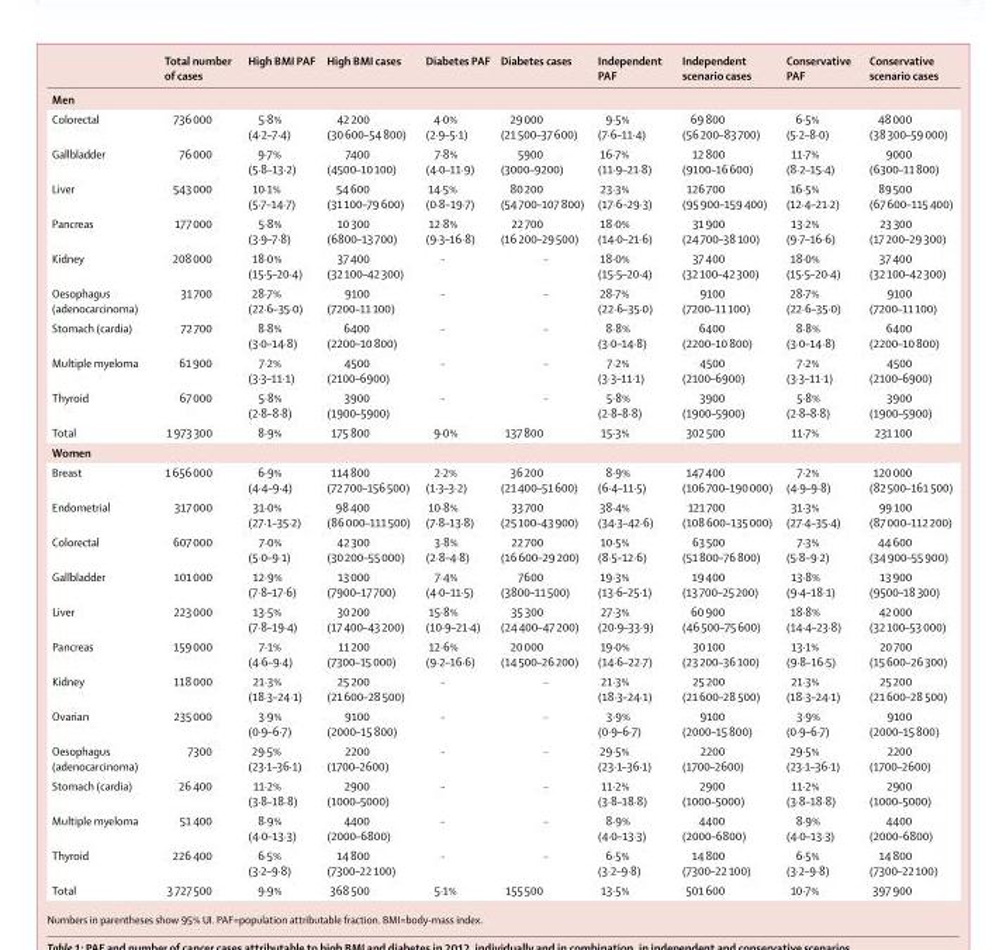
<table><thead><tr><td></td><td>Total number of cases</td><td>High BMI PAF</td><td>High BMI cases</td><td>Diabetes PAF</td><td>Diabetes cases</td><td>Independent PAF</td><td>Independent scenario cases</td><td>Conservative PAF</td><td>Conservative scenario cases</td></tr></thead><tbody><tr><td colspan="10">Men</td></tr><tr><td>Colorectal</td><td>736 000</td><td>5·8% (4·2–7·4)</td><td>42 200 (30 600–54 800)</td><td>4·0% (2·9–5·1)</td><td>29 000 (21 500–37 600)</td><td>9·5% (7·6–11·4)</td><td>69 800 (56 200–83 700)</td><td>6·5% (5·2–8·0)</td><td>48 000 (38 300–59 000)</td></tr><tr><td>Gallbladder</td><td>76 000</td><td>9·7% (5·8–13·2)</td><td>7400 (4500–10 100)</td><td>7·8% (4·0–11·9)</td><td>5900 (3000–9200)</td><td>16·7% (11·9–21·8)</td><td>12 800 (9100–16 600)</td><td>11·7% (8·2–15·4)</td><td>9000 (6300–11 800)</td></tr><tr><td>Liver</td><td>543 000</td><td>10·1% (5·7–14·7)</td><td>54 600 (31 100–79 600)</td><td>14·5% (0·8–19·7)</td><td>80 200 (54 700–107 800)</td><td>23·3% (17·6–29·3)</td><td>126 700 (95 900–159 400)</td><td>16·5% (12·4–21·2)</td><td>89 500 (67 600–115 400)</td></tr><tr><td>Pancreas</td><td>177 000</td><td>5·8% (3·9–7·8)</td><td>10 300 (6800–13 700)</td><td>12·8% (9·3–16·8)</td><td>22 700 (16 200–29 500)</td><td>18·0% (14·0–21·6)</td><td>31 900 (24 700–38 100)</td><td>13·2% (9·7–16·6)</td><td>23 300 (17 200–29 300)</td></tr><tr><td>Kidney</td><td>208 000</td><td>18·0% (15·5–20·4)</td><td>37 400 (32 100–42 300)</td><td>··</td><td>··</td><td>18·0% (15·5–20·4)</td><td>37 400 (32 100–42 300)</td><td>18·0% (15·5–20·4)</td><td>37 400 (32 100–42 300)</td></tr><tr><td>Oesophagus (adenocarcinoma)</td><td>31 700</td><td>28·7% (22·6–35·0)</td><td>9100 (7200–11 100)</td><td>··</td><td>··</td><td>28·7% (22·6–35·0)</td><td>9100 (7200–11 100)</td><td>28·7% (22·6–35·0)</td><td>9100 (7200–11 100)</td></tr><tr><td>Stomach (cardia)</td><td>72 700</td><td>8·8% (3·0–14·8)</td><td>6400 (2200–10 800)</td><td>··</td><td>··</td><td>8·8% (3·0–14·8)</td><td>6400 (2200–10 800)</td><td>8·8% (3·0–14·8)</td><td>6400 (2200–10 800)</td></tr><tr><td>Multiple myeloma</td><td>61 900</td><td>7·2% (3·3–11·1)</td><td>4500 (2100–6900)</td><td>··</td><td>··</td><td>7·2% (3·3–11·1)</td><td>4500 (2100–6900)</td><td>7·2% (3·3–11·1)</td><td>4500 (2100–6900)</td></tr><tr><td>Thyroid</td><td>67 000</td><td>5·8% (2·8–8·8)</td><td>3900 (1900–5900)</td><td>··</td><td>··</td><td>5·8% (2·8–8·8)</td><td>3900 (1900–5900)</td><td>5·8% (2·8–8·8)</td><td>3900 (1900–5900)</td></tr><tr><td>Total</td><td>1 973 300</td><td>8·9%</td><td>175 800</td><td>9·0%</td><td>137 800</td><td>15·3%</td><td>302 500</td><td>11·7%</td><td>231 100</td></tr><tr><td colspan="10">Women</td></tr><tr><td>Breast</td><td>1 656 000</td><td>6·9% (4·4–9·4)</td><td>114 800 (72 700–156 500)</td><td>2·2% (1·3–3·2)</td><td>36 200 (21 400–51 600)</td><td>8·9% (6·4–11·5)</td><td>147 400 (106 700–190 000)</td><td>7·2% (4·9–9·8)</td><td>120 000 (82 500–161 500)</td></tr><tr><td>Endometrial</td><td>317 000</td><td>31·0% (27·1–35·2)</td><td>98 400 (86 000–111 500)</td><td>10·8% (7·8–13·8)</td><td>33 700 (25 100–43 900)</td><td>38·4% (34·3–42·6)</td><td>121 700 (108 600–135 000)</td><td>31·3% (27·4–35·4)</td><td>99 100 (87 000–112 200)</td></tr><tr><td>Colorectal</td><td>607 000</td><td>7·0% (5·0–9·1)</td><td>42 300 (30 200–55 000)</td><td>3·8% (2·8–4·8)</td><td>22 700 (16 600–29 200)</td><td>10·5% (8·5–12·6)</td><td>63 500 (51 800–76 800)</td><td>7·3% (5·8–9·2)</td><td>44 600 (34 900–55 900)</td></tr><tr><td>Gallbladder</td><td>101 000</td><td>12·9% (7·8–17·6)</td><td>13 000 (7900–17 700)</td><td>7·4% (4·0–11·5)</td><td>7600 (3800–11 500)</td><td>19·3% (13·6–25·1)</td><td>19 400 (13 700–25 200)</td><td>13·8% (9·4–18·1)</td><td>13 900 (9500–18 300)</td></tr><tr><td>Liver</td><td>223 000</td><td>13·5% (7·8–19·4)</td><td>30 200 (17 400–43 200)</td><td>15·8% (10·9–21·4)</td><td>35 300 (24 400–47 200)</td><td>27·3% (20·9–33·9)</td><td>60 900 (46 500–75 600)</td><td>18·8% (14·4–23·8)</td><td>42 000 (32 100–53 000)</td></tr><tr><td>Pancreas</td><td>159 000</td><td>7·1% (4·6–9·4)</td><td>11 200 (7300–15 000)</td><td>12·6% (9·2–16·6)</td><td>20 000 (14 500–26 200)</td><td>19·0% (14·6–22·7)</td><td>30 100 (23 200–36 100)</td><td>13·1% (9·8–16·5)</td><td>20 700 (15 600–26 300)</td></tr><tr><td>Kidney</td><td>118 000</td><td>21·3% (18·3–24·1)</td><td>25 200 (21 600–28 500)</td><td>··</td><td>··</td><td>21·3% (18·3–24·1)</td><td>25 200 (21 600–28 500)</td><td>21·3% (18·3–24·1)</td><td>25 200 (21 600–28 500)</td></tr><tr><td>Ovarian</td><td>235 000</td><td>3·9% (0·9–6·7)</td><td>9100 (2000–15 800)</td><td>··</td><td>··</td><td>3·9% (0·9–6·7)</td><td>9100 (2000–15 800)</td><td>3·9% (0·9–6·7)</td><td>9100 (2000–15 800)</td></tr><tr><td>Oesophagus (adenocarcinoma)</td><td>7300</td><td>29·5% (23·1–36·1)</td><td>2200 (1700–2600)</td><td>··</td><td>··</td><td>29·5% (23·1–36·1)</td><td>2200 (1700–2600)</td><td>29·5% (23·1–36·1)</td><td>2200 (1700–2600)</td></tr><tr><td>Stomach (cardia)</td><td>26 400</td><td>11·2% (3·8–18·8)</td><td>2900 (1000–5000)</td><td>··</td><td>··</td><td>11·2% (3·8–18·8)</td><td>2900 (1000–5000)</td><td>11·2% (3·8–18·8)</td><td>2900 (1000–5000)</td></tr><tr><td>Multiple myeloma</td><td>51 400</td><td>8·9% (4·0–13·3)</td><td>4400 (2000–6800)</td><td>··</td><td>··</td><td>8·9% (4·0–13·3)</td><td>4400 (2000–6800)</td><td>8·9% (4·0–13·3)</td><td>4400 (2000–6800)</td></tr><tr><td>Thyroid</td><td>226 400</td><td>6·5% (3·2–9·8)</td><td>14 800 (7300–22 100)</td><td>··</td><td>··</td><td>6·5% (3·2–9·8)</td><td>14 800 (7300–22 100)</td><td>6·5% (3·2–9·8)</td><td>14 800 (7300–22 100)</td></tr><tr><td>Total</td><td>3 727 500</td><td>9·9%</td><td>368 500</td><td>5·1%</td><td>155 500</td><td>13·5%</td><td>501 600</td><td>10·7%</td><td>397 900</td></tr></tbody></table>